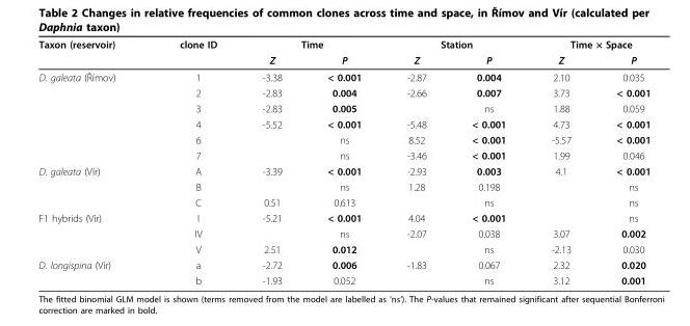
<table><thead><tr><td rowspan="2">Taxon (reservoir)</td><td rowspan="2">clone ID</td><td colspan="2">Time</td><td colspan="2">Station</td><td colspan="2">Time × Space</td></tr><tr><td>Z</td><td>P</td><td>Z</td><td>P</td><td>Z</td><td>P</td></tr></thead><tbody><tr><td rowspan="6">D. galeata (Římov)</td><td>1</td><td>-3.38</td><td>&lt; 0.001</td><td>-2.87</td><td>0.004</td><td>2.10</td><td>0.035</td></tr><tr><td>2</td><td>-2.83</td><td>0.004</td><td>-2.66</td><td>0.007</td><td>3.73</td><td>&lt; 0.001</td></tr><tr><td>3</td><td>-2.83</td><td>0.005</td><td></td><td>ns</td><td>1.88</td><td>0.059</td></tr><tr><td>4</td><td>-5.52</td><td>&lt; 0.001</td><td>-5.48</td><td>&lt; 0.001</td><td>4.73</td><td>&lt; 0.001</td></tr><tr><td>6</td><td></td><td>ns</td><td>8.52</td><td>&lt; 0.001</td><td>-5.57</td><td>&lt; 0.001</td></tr><tr><td>7</td><td></td><td>ns</td><td>-3.46</td><td>&lt; 0.001</td><td>1.99</td><td>0.046</td></tr><tr><td rowspan="3">D. galeata (Vír)</td><td>A</td><td>-3.39</td><td>&lt; 0.001</td><td>-2.93</td><td>0.003</td><td>4.1</td><td>&lt; 0.001</td></tr><tr><td>B</td><td></td><td>ns</td><td>1.28</td><td>0.198</td><td></td><td>ns</td></tr><tr><td>C</td><td>0.51</td><td>0.613</td><td></td><td>ns</td><td></td><td>ns</td></tr><tr><td rowspan="3">F1 hybrids (Vír)</td><td>I</td><td>-5.21</td><td>&lt; 0.001</td><td>4.04</td><td>&lt; 0.001</td><td></td><td>ns</td></tr><tr><td>IV</td><td></td><td>ns</td><td>-2.07</td><td>0.038</td><td>3.07</td><td>0.002</td></tr><tr><td>V</td><td>2.51</td><td>0.012</td><td></td><td>ns</td><td>-2.13</td><td>0.030</td></tr><tr><td rowspan="2">D. longispina (Vír)</td><td>a</td><td>-2.72</td><td>0.006</td><td>-1.83</td><td>0.067</td><td>2.32</td><td>0.020</td></tr><tr><td>b</td><td>-1.93</td><td>0.052</td><td></td><td>ns</td><td>3.12</td><td>0.001</td></tr></tbody></table>